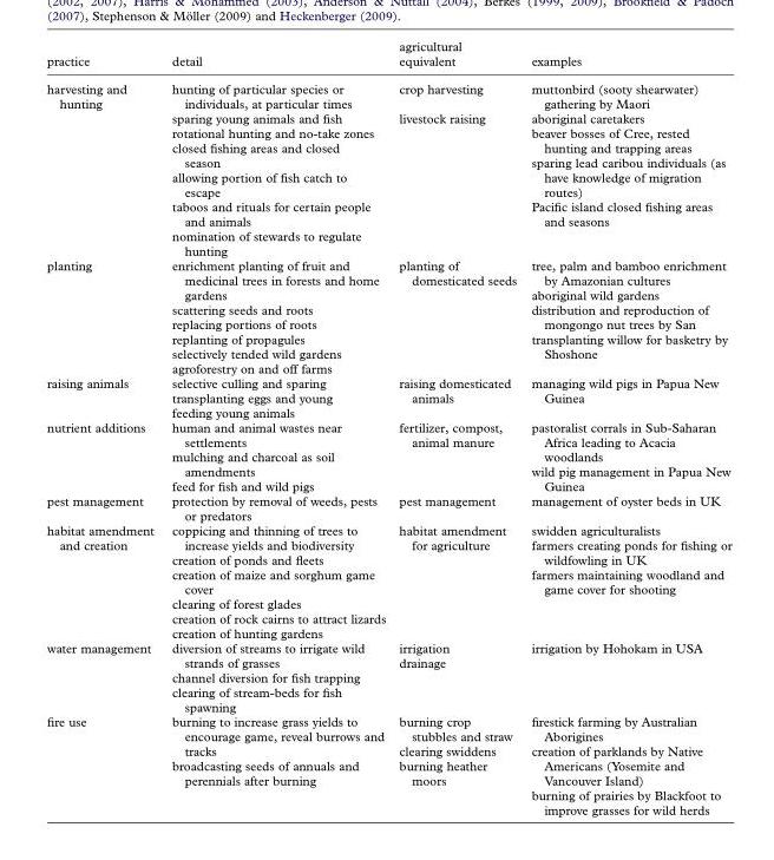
<table><thead><tr><td>practice</td><td>detail</td><td>agricultural equivalent</td><td>examples</td></tr></thead><tbody><tr><td rowspan="6">harvesting and hunting</td><td>hunting of particular species or individuals, at particular times</td><td>crop harvesting</td><td>muttonbird (sooty shearwater) gathering by Maori</td></tr><tr><td>sparing young animals and fish</td><td>livestock raising</td><td>aboriginal caretakers</td></tr><tr><td>rotational hunting and no-take zones closed fishing areas and closed</td><td></td><td>beaver bosses of Cree, rested hunting and trapping areas</td></tr><tr><td>season allowing portion of fish catch to escape</td><td></td><td>sparing lead caribou individuals (as have knowledge of migration routes)</td></tr><tr><td>taboos and rituals for certain people and animals</td><td></td><td>Pacific island closed fishing areas and seasons</td></tr><tr><td>nomination of stewards to regulate hunting</td><td></td><td></td></tr><tr><td rowspan="6">planting</td><td>enrichment planting of fruit and medicinal trees in forests and home gardens</td><td>planting of domesticated seeds</td><td>tree, palm and bamboo enrichment by Amazonian cultures aboriginal wild gardens</td></tr><tr><td>scattering seeds and roots</td><td></td><td>distribution and reproduction of</td></tr><tr><td>replacing portions of roots</td><td></td><td>mongongo nut trees by San</td></tr><tr><td>replanting of propagules</td><td></td><td>transplanting willow for basketry by</td></tr><tr><td>selectively tended wild gardens</td><td></td><td>Shoshone</td></tr><tr><td>agroforestry on and off farms</td><td></td><td></td></tr><tr><td rowspan="3">raising animals</td><td>selective culling and sparing</td><td>raising domesticated</td><td>managing wild pigs in Papua New</td></tr><tr><td>transplanting eggs and young</td><td>animals</td><td>Guinea</td></tr><tr><td>feeding young animals</td><td></td><td></td></tr><tr><td rowspan="2">nutrient additions</td><td>human and animal wastes near settlements mulching and charcoal as soil amendments</td><td>fertilizer, compost, animal manure</td><td>pastoralist corrals in Sub-Saharan Africa leading to Acacia woodlands wild pig management in Papua New</td></tr><tr><td>feed for fish and wild pigs</td><td></td><td>Guinea</td></tr><tr><td>pest management</td><td>protection by removal of weeds, pests or predators</td><td>pest management</td><td>management of oyster beds in UK</td></tr><tr><td rowspan="6">habitat amendment and creation</td><td>coppicing and thinning of trees to increase yields and biodiversity</td><td>habitat amendment for agriculture</td><td>swidden agriculturalists farmers creating ponds for fishing or</td></tr><tr><td>creation of ponds and fleets</td><td></td><td>wildfowling in UK</td></tr><tr><td>creation of maize and sorghum game cover</td><td></td><td>farmers maintaining woodland and game cover for shooting</td></tr><tr><td>clearing of forest glades</td><td></td><td></td></tr><tr><td>creation of rock cairns to attract lizards</td><td></td><td></td></tr><tr><td>creation of hunting gardens</td><td></td><td></td></tr><tr><td rowspan="3">water management</td><td>diversion of streams to irrigate wild strands of grasses</td><td>irrigation drainage</td><td>irrigation by Hohokam in USA</td></tr><tr><td>channel diversion for fish trapping</td><td></td><td></td></tr><tr><td>clearing of stream-beds for fish spawning</td><td></td><td></td></tr><tr><td rowspan="3">fire use</td><td>burning to increase grass yields to encourage game, reveal burrows and tracks</td><td>burning crop stubbles and straw clearing swiddens</td><td>firestick farming by Australian Aborigines creation of parklands by Native</td></tr><tr><td>broadcasting seeds of annuals and perennials after burning</td><td>burning heather moors</td><td>Americans (Yosemite and Vancouver Island)</td></tr><tr><td></td><td></td><td>burning of prairies by Blackfoot to improve grasses for wild herds</td></tr></tbody></table>